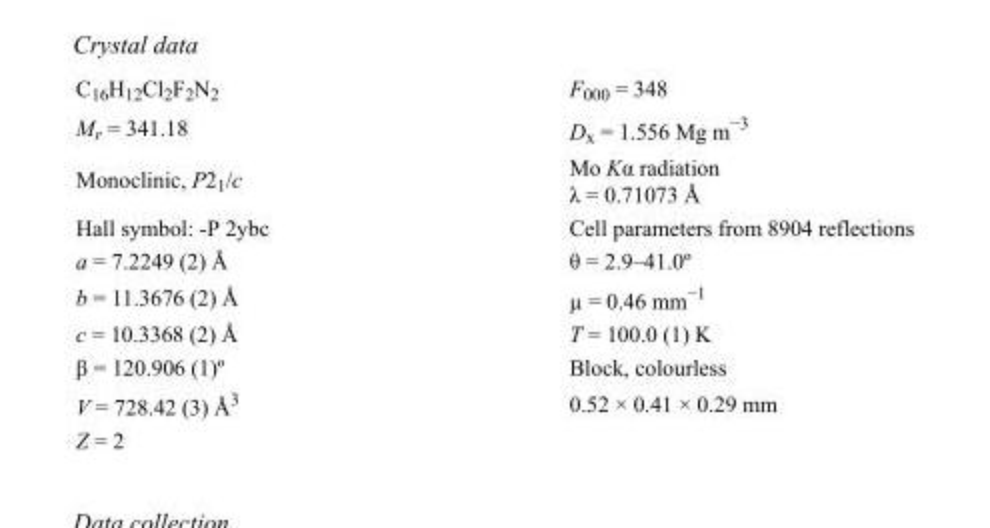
<table><tbody><tr><td>C<sub>16</sub>H<sub>12</sub>Cl<sub>2</sub>F<sub>2</sub>N<sub>2</sub></td><td>F000 = 348</td></tr><tr><td>M<sub>r</sub> = 341.18</td><td>D<sub>x</sub> = 1.556 Mg m<sup>−3</sup></td></tr><tr><td>Monoclinic, P2<sub>1</sub>/c</td><td>Mo Kα radiation λ = 0.71073 Å</td></tr><tr><td>Hall symbol: -P 2ybc</td><td>Cell parameters from 8904 reflections</td></tr><tr><td>a = 7.2249 (2) Å</td><td>θ = 2.9–41.0º</td></tr><tr><td>b = 11.3676 (2) Å</td><td>µ = 0.46 mm<sup>−1</sup></td></tr><tr><td>c = 10.3368 (2) Å</td><td>T = 100.0 (1) K</td></tr><tr><td>β = 120.906 (1)º</td><td>Block, colourless</td></tr><tr><td>V = 728.42 (3) Å<sup>3</sup></td><td>0.52 × 0.41 × 0.29 mm</td></tr><tr><td>Z = 2</td><td></td></tr></tbody></table>